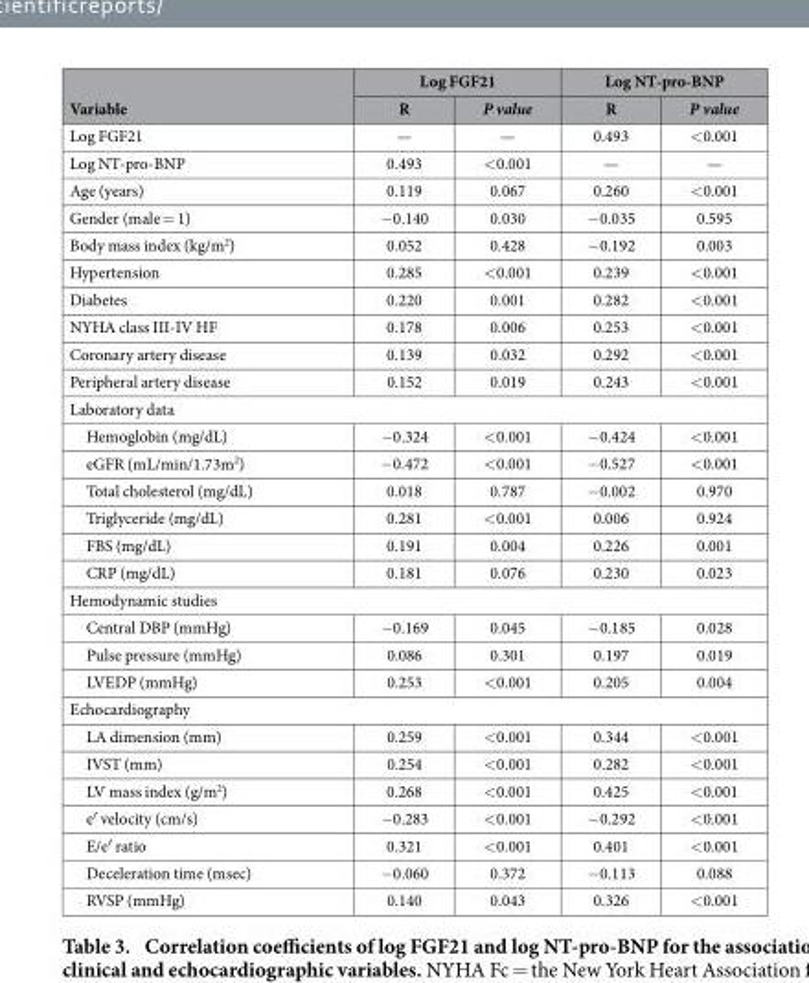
<table><thead><tr><td rowspan="2">Variable</td><td colspan="2">Log FGF21</td><td colspan="2">Log NT-pro-BNP</td></tr><tr><td>R</td><td>P value</td><td>R</td><td>P value</td></tr></thead><tbody><tr><td>Log FGF21</td><td>—</td><td>—</td><td>0.493</td><td>&lt; 0.001</td></tr><tr><td>Log NT-pro-BNP</td><td>0.493</td><td>&lt; 0.001</td><td>—</td><td>—</td></tr><tr><td>Age (years)</td><td>0.119</td><td>0.067</td><td>0.260</td><td>&lt; 0.001</td></tr><tr><td>Gender (male = 1)</td><td>− 0.140</td><td>0.030</td><td>− 0.035</td><td>0.595</td></tr><tr><td>Body mass index (kg/m<sup>2</sup>)</td><td>0.052</td><td>0.428</td><td>− 0.192</td><td>0.003</td></tr><tr><td>Hypertension</td><td>0.285</td><td>&lt; 0.001</td><td>0.239</td><td>&lt; 0.001</td></tr><tr><td>Diabetes</td><td>0.220</td><td>0.001</td><td>0.282</td><td>&lt; 0.001</td></tr><tr><td>NYHA class III-IV HF</td><td>0.178</td><td>0.006</td><td>0.253</td><td>&lt; 0.001</td></tr><tr><td>Coronary artery disease</td><td>0.139</td><td>0.032</td><td>0.292</td><td>&lt; 0.001</td></tr><tr><td>Peripheral artery disease</td><td>0.152</td><td>0.019</td><td>0.243</td><td>&lt; 0.001</td></tr><tr><td colspan="5">Laboratory data</td></tr><tr><td>Hemoglobin (mg/dL)</td><td>− 0.324</td><td>&lt; 0.001</td><td>− 0.424</td><td>&lt; 0.001</td></tr><tr><td>eGFR (mL/min/1.73m<sup>2</sup>)</td><td>− 0.472</td><td>&lt; 0.001</td><td>− 0.527</td><td>&lt; 0.001</td></tr><tr><td>Total cholesterol (mg/dL)</td><td>0.018</td><td>0.787</td><td>− 0.002</td><td>0.970</td></tr><tr><td>Triglyceride (mg/dL)</td><td>0.281</td><td>&lt; 0.001</td><td>0.006</td><td>0.924</td></tr><tr><td>FBS (mg/dL)</td><td>0.191</td><td>0.004</td><td>0.226</td><td>0.001</td></tr><tr><td>CRP (mg/dL)</td><td>0.181</td><td>0.076</td><td>0.230</td><td>0.023</td></tr><tr><td colspan="5">Hemodynamic studies</td></tr><tr><td>Central DBP (mmHg)</td><td>− 0.169</td><td>0.045</td><td>− 0.185</td><td>0.028</td></tr><tr><td>Pulse pressure (mmHg)</td><td>0.086</td><td>0.301</td><td>0.197</td><td>0.019</td></tr><tr><td>LVEDP (mmHg)</td><td>0.253</td><td>&lt; 0.001</td><td>0.205</td><td>0.004</td></tr><tr><td colspan="5">Echocardiography</td></tr><tr><td>LA dimension (mm)</td><td>0.259</td><td>&lt; 0.001</td><td>0.344</td><td>&lt; 0.001</td></tr><tr><td>IVST (mm)</td><td>0.254</td><td>&lt; 0.001</td><td>0.282</td><td>&lt; 0.001</td></tr><tr><td>LV mass index (g/m<sup>2</sup>)</td><td>0.268</td><td>&lt; 0.001</td><td>0.425</td><td>&lt; 0.001</td></tr><tr><td>e′ velocity (cm/s)</td><td>− 0.283</td><td>&lt; 0.001</td><td>− 0.292</td><td>&lt; 0.001</td></tr><tr><td>E/e′ ratio</td><td>0.321</td><td>&lt; 0.001</td><td>0.401</td><td>&lt; 0.001</td></tr><tr><td>Deceleration time (msec)</td><td>− 0.060</td><td>0.372</td><td>− 0.113</td><td>0.088</td></tr><tr><td>RVSP (mmHg)</td><td>0.140</td><td>0.043</td><td>0.326</td><td>&lt; 0.001</td></tr></tbody></table>